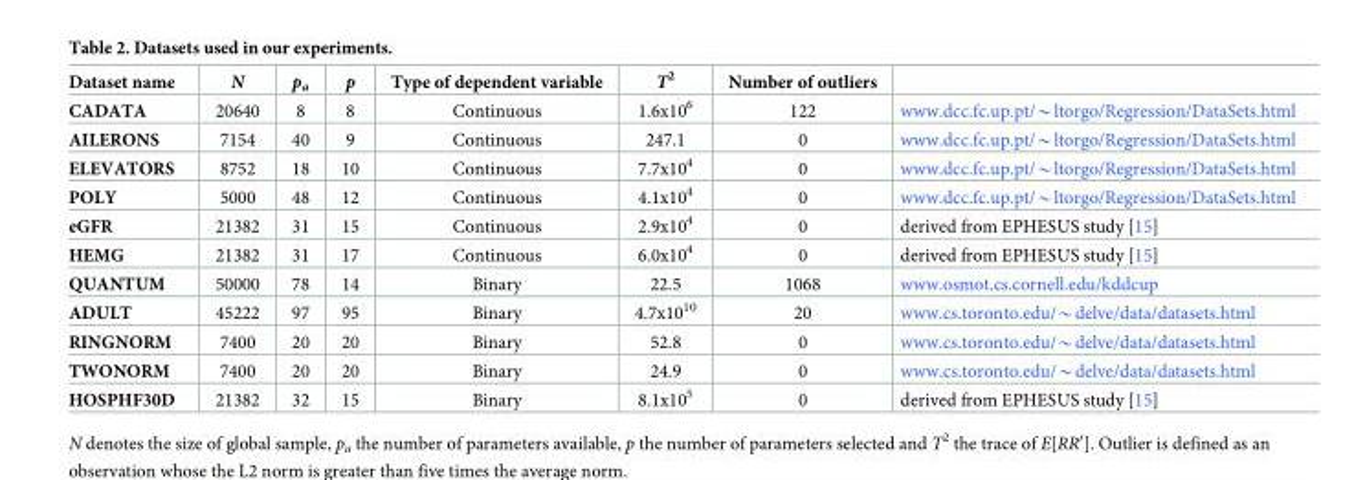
<table><thead><tr><td>Dataset name</td><td>N</td><td>p<sub>a</sub></td><td>p</td><td>Type of dependent variable</td><td>T<sup>2</sup></td><td>Number of outliers</td><td></td></tr></thead><tbody><tr><td>CADATA</td><td>20640</td><td>8</td><td>8</td><td>Continuous</td><td>1.6x10<sup>6</sup></td><td>122</td><td>www.dcc.fc.up.pt/*ltorgo/Regression/DataSets.html</td></tr><tr><td>AILERONS</td><td>7154</td><td>40</td><td>9</td><td>Continuous</td><td>247.1</td><td>0</td><td>www.dcc.fc.up.pt/*ltorgo/Regression/DataSets.html</td></tr><tr><td>ELEVATORS</td><td>8752</td><td>18</td><td>10</td><td>Continuous</td><td>7.7x10<sup>4</sup></td><td>0</td><td>www.dcc.fc.up.pt/*ltorgo/Regression/DataSets.html</td></tr><tr><td>POLY</td><td>5000</td><td>48</td><td>12</td><td>Continuous</td><td>4.1x10<sup>4</sup></td><td>0</td><td>www.dcc.fc.up.pt/*ltorgo/Regression/DataSets.html</td></tr><tr><td>eGFR</td><td>21382</td><td>31</td><td>15</td><td>Continuous</td><td>2.9x10<sup>4</sup></td><td>0</td><td>derived from EPHESUS study [15]</td></tr><tr><td>HEMG</td><td>21382</td><td>31</td><td>17</td><td>Continuous</td><td>6.0x10<sup>4</sup></td><td>0</td><td>derived from EPHESUS study [15]</td></tr><tr><td>QUANTUM</td><td>50000</td><td>78</td><td>14</td><td>Binary</td><td>22.5</td><td>1068</td><td>www.osmot.cs.cornell.edu/kddcup</td></tr><tr><td>ADULT</td><td>45222</td><td>97</td><td>95</td><td>Binary</td><td>4.7x10<sup>10</sup></td><td>20</td><td>www.cs.toronto.edu/*delve/data/datasets.html</td></tr><tr><td>RINGNORM</td><td>7400</td><td>20</td><td>20</td><td>Binary</td><td>52.8</td><td>0</td><td>www.cs.toronto.edu/*delve/data/datasets.html</td></tr><tr><td>TWONORM</td><td>7400</td><td>20</td><td>20</td><td>Binary</td><td>24.9</td><td>0</td><td>www.cs.toronto.edu/*delve/data/datasets.html</td></tr><tr><td>HOSPHF30D</td><td>21382</td><td>32</td><td>15</td><td>Binary</td><td>8.1x10<sup>5</sup></td><td>0</td><td>derived from EPHESUS study [15]</td></tr></tbody></table>